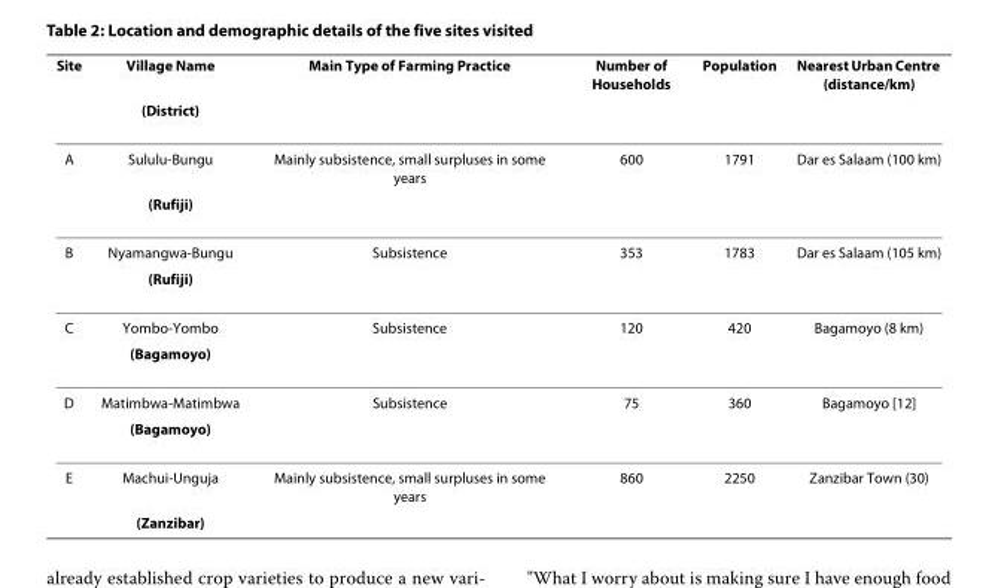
<table><thead><tr><td rowspan="2">Site</td><td rowspan="2">Village Name (District)</td><td rowspan="2">Main Type of Farming Practice</td><td rowspan="2">Number of Households</td><td rowspan="2">Population</td><td rowspan="2">Nearest Urban Centre (distance/km)</td></tr><tr></tr></thead><tbody><tr><td rowspan="2">A</td><td>Sululu-Bungu</td><td>Mainly subsistence, small surpluses in some years</td><td>600</td><td>1791</td><td>Dar es Salaam (100 km)</td></tr><tr><td>(Rufiji)</td><td></td><td></td><td></td><td></td></tr><tr><td rowspan="2">B</td><td>Nyamangwa-Bungu</td><td>Subsistence</td><td>353</td><td>1783</td><td>Dar es Salaam (105 km)</td></tr><tr><td>(Rufiji)</td><td></td><td></td><td></td><td></td></tr><tr><td rowspan="2">C</td><td>Yombo-Yombo</td><td>Subsistence</td><td>120</td><td>420</td><td>Bagamoyo (8 km)</td></tr><tr><td>(Bagamoyo)</td><td></td><td></td><td></td><td></td></tr><tr><td rowspan="2">D</td><td>Matimbwa-Matimbwa</td><td>Subsistence</td><td>75</td><td>360</td><td>Bagamoyo [12]</td></tr><tr><td>(Bagamoyo)</td><td></td><td></td><td></td><td></td></tr><tr><td rowspan="2">E</td><td>Machui-Unguja</td><td>Mainly subsistence, small surpluses in some years</td><td>860</td><td>2250</td><td>Zanzibar Town (30)</td></tr><tr><td>(Zanzibar)</td><td></td><td></td><td></td><td></td></tr></tbody></table>